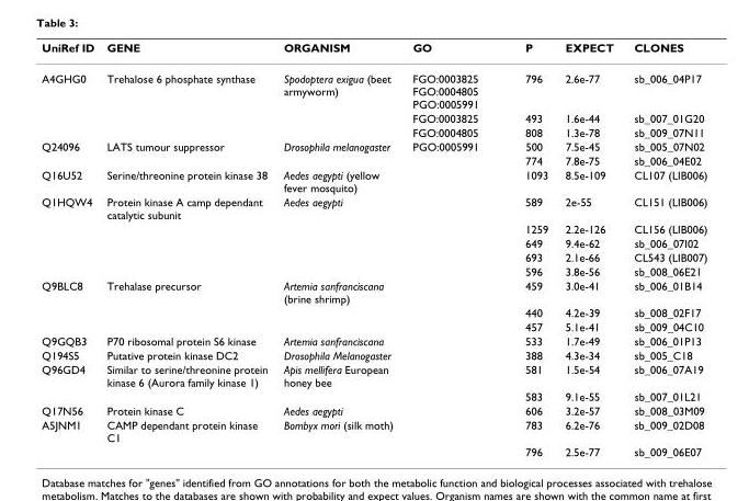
<table><thead><tr><td>UniRef ID</td><td>GENE</td><td>ORGANISM</td><td>GO</td><td>P</td><td>EXPECT</td><td>CLONES</td></tr></thead><tbody><tr><td rowspan="3">A4GHG0</td><td>Trehalose 6 phosphate synthase</td><td>Spodoptera exigua (beet armyworm)</td><td>FGO:0003825 FGO:0004805 PGO:0005991</td><td>796</td><td>2.6e-77</td><td>sb_006_04P17</td></tr><tr><td></td><td></td><td>FGO:0003825</td><td>493</td><td>1.6e-44</td><td>sb_007_01G20</td></tr><tr><td></td><td></td><td>FGO:0004805</td><td>808</td><td>1.3e-78</td><td>sb_009_07N11</td></tr><tr><td rowspan="2">Q24096</td><td>LATS tumour suppressor</td><td>Drosophila melanogaster</td><td>PGO:0005991</td><td>500</td><td>7.5e-45</td><td>sb_005_07N02</td></tr><tr><td></td><td></td><td></td><td>774</td><td>7.8e-75</td><td>sb_006_04E02</td></tr><tr><td>Q16U52</td><td>Serine/threonine protein kinase 38</td><td>Aedes aegypti (yellow fever mosquito)</td><td></td><td>1093</td><td>8.5e-109</td><td>CL107 (LIB006)</td></tr><tr><td rowspan="5">Q1HQW4</td><td>Protein kinase A camp dependant catalytic subunit</td><td>Aedes aegypti</td><td></td><td>589</td><td>2e-55</td><td>CL151 (LIB006)</td></tr><tr><td></td><td></td><td></td><td>1259</td><td>2.2e-126</td><td>CL156 (LIB006)</td></tr><tr><td></td><td></td><td></td><td>649</td><td>9.4e-62</td><td>sb_006_07I02</td></tr><tr><td></td><td></td><td></td><td>693</td><td>2.1e-66</td><td>CL543 (LIB007)</td></tr><tr><td></td><td></td><td></td><td>596</td><td>3.8e-56</td><td>sb_008_06E21</td></tr><tr><td rowspan="3">Q9BLC8</td><td>Trehalase precursor</td><td>Artemia sanfranciscana (brine shrimp)</td><td></td><td>459</td><td>3.0e-41</td><td>sb_006_01B14</td></tr><tr><td></td><td></td><td></td><td>440</td><td>4.2e-39</td><td>sb_008_02F17</td></tr><tr><td></td><td></td><td></td><td>457</td><td>5.1e-41</td><td>sb_009_04C10</td></tr><tr><td>Q9GQB3</td><td>P70 ribosomal protein S6 kinase</td><td>Artemia sanfranciscana</td><td></td><td>533</td><td>1.7e-49</td><td>sb_006_01P13</td></tr><tr><td>Q194S5</td><td>Putative protein kinase DC2</td><td>Drosophila Melanogaster</td><td></td><td>388</td><td>4.3e-34</td><td>sb_005_C18</td></tr><tr><td rowspan="2">Q96GD4</td><td>Similar to serine/threonine protein kinase 6 (Aurora family kinase 1)</td><td>Apis mellifera European honey bee</td><td></td><td>581</td><td>1.5e-54</td><td>sb_006_07A19</td></tr><tr><td></td><td></td><td></td><td>583</td><td>9.1e-55</td><td>sb_007_01L21</td></tr><tr><td>Q17N56</td><td>Protein kinase C</td><td>Aedes aegypti</td><td></td><td>606</td><td>3.2e-57</td><td>sb_008_03M09</td></tr><tr><td rowspan="2">A5JNM1</td><td>CAMP dependant protein kinase C1</td><td>Bombyx mori (silk moth)</td><td></td><td>783</td><td>6.2e-76</td><td>sb_009_02D08</td></tr><tr><td></td><td></td><td></td><td>796</td><td>2.5e-77</td><td>sb_009_06E07</td></tr></tbody></table>